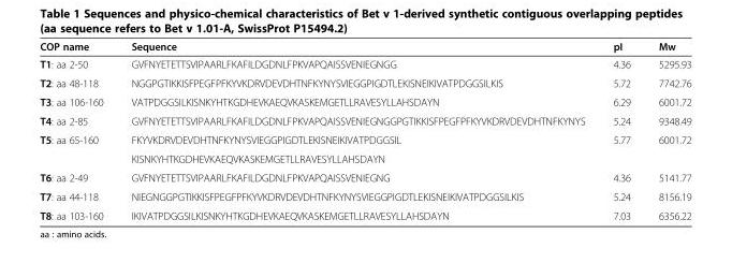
<table><thead><tr><td>COP name</td><td>Sequence</td><td>pI</td><td>Mw</td></tr></thead><tbody><tr><td>T1: aa 2-50</td><td>GVFNYETETTSVIPAARLFKAFILDGDNLFPKVAPQAISSVENIEGNGG</td><td>4.36</td><td>5295.93</td></tr><tr><td>T2: aa 48-118</td><td>NGGPGTIKKISFPEGFPFKYVKDRVDEVDHTNFKYNYSVIEGGPIGDTLEKISNEIKIVATPDGGSILKIS</td><td>5.72</td><td>7742.76</td></tr><tr><td>T3: aa 106-160</td><td>VATPDGGSILKISNKYHTKGDHEVKAEQVKASKEMGETLLRAVESYLLAHSDAYN</td><td>6.29</td><td>6001.72</td></tr><tr><td>T4: aa 2-85</td><td>GVFNYETETTSVIPAARLFKAFILDGDNLFPKVAPQAISSVENIEGNGGPGTIKKISFPEGFPFKYVKDRVDEVDHTNFKYNYS</td><td>5.24</td><td>9348.49</td></tr><tr><td rowspan="2">T5: aa 65-160</td><td>FKYVKDRVDEVDHTNFKYNYSVIEGGPIGDTLEKISNEIKIVATPDGGSIL</td><td>5.77</td><td>6001.72</td></tr><tr><td>KISNKYHTKGDHEVKAEQVKASKEMGETLLRAVESYLLAHSDAYN</td><td></td><td></td></tr><tr><td>T6: aa 2-49</td><td>GVFNYETETTSVIPAARLFKAFILDGDNLFPKVAPQAISSVENIEGNG</td><td>4.36</td><td>5141.77</td></tr><tr><td>T7: aa 44-118</td><td>NIEGNGGPGTIKKISFPEGFPFKYVKDRVDEVDHTNFKYNYSVIEGGPIGDTLEKISNEIKIVATPDGGSILKIS</td><td>5.24</td><td>8156.19</td></tr><tr><td>T8: aa 103-160</td><td>IKIVATPDGGSILKISNKYHTKGDHEVKAEQVKASKEMGETLLRAVESYLLAHSDAYN</td><td>7.03</td><td>6356.22</td></tr></tbody></table>